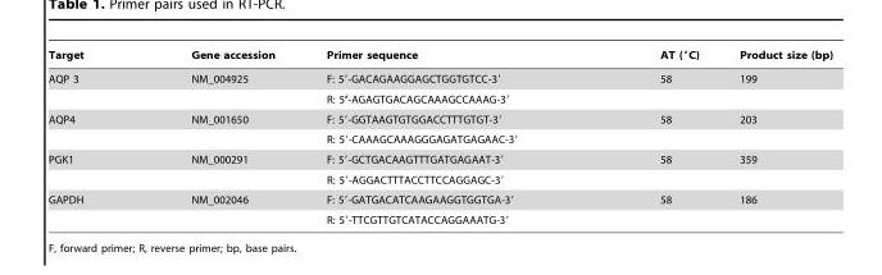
<table><thead><tr><td>Target</td><td>Gene accession</td><td>Primer sequence</td><td>AT (°C)</td><td>Product size (bp)</td></tr></thead><tbody><tr><td rowspan="2">AQP 3</td><td>NM_004925</td><td>F: 5′-GACAGAAGGAGCTGGTGTCC-3′</td><td>58</td><td>199</td></tr><tr><td></td><td>R: 5’-AGAGTGACAGCAAAGCCAAAG-3′</td><td></td><td></td></tr><tr><td rowspan="2">AQP4</td><td>NM_001650</td><td>F: 5′-GGTAAGTGTGGACCTTTGTGT-3′</td><td>58</td><td>203</td></tr><tr><td></td><td>R: 5′-CAAAGCAAAGGGAGATGAGAAC-3′</td><td></td><td></td></tr><tr><td rowspan="2">PGK1</td><td>NM_000291</td><td>F: 5′-GCTGACAAGTTTGATGAGAAT-3′</td><td>58</td><td>359</td></tr><tr><td></td><td>R: 5′-AGGACTTTACCTTCCAGGAGC-3′</td><td></td><td></td></tr><tr><td rowspan="2">GAPDH</td><td>NM_002046</td><td>F: 5′-GATGACATCAAGAAGGTGGTGA-3′</td><td>58</td><td>186</td></tr><tr><td></td><td>R: 5′-TTCGTTGTCATACCAGGAAATG-3′</td><td></td><td></td></tr></tbody></table>